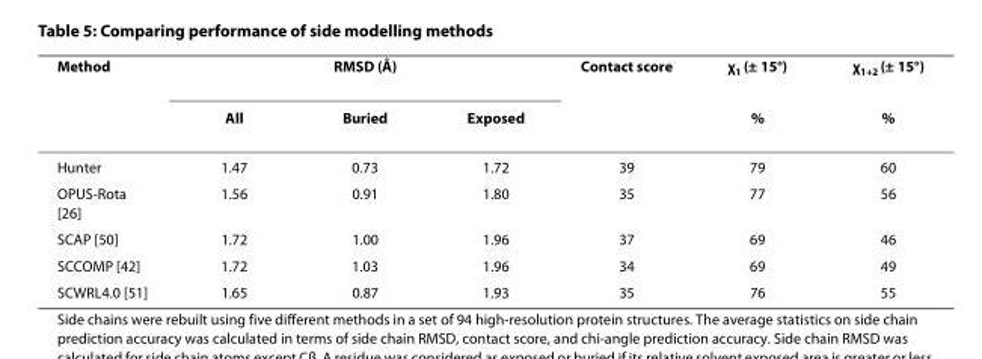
<table><thead><tr><td rowspan="2">Method</td><td colspan="3">RMSD (Å)</td><td rowspan="2">Contact score</td><td rowspan="2">χ<sub>1</sub> (± 15°) %</td><td rowspan="2">χ<sub>1+2</sub> (± 15°) %</td></tr><tr><td>All</td><td>Buried</td><td>Exposed</td></tr></thead><tbody><tr><td>Hunter</td><td>1.47</td><td>0.73</td><td>1.72</td><td>39</td><td>79</td><td>60</td></tr><tr><td>OPUS-Rota [26]</td><td>1.56</td><td>0.91</td><td>1.80</td><td>35</td><td>77</td><td>56</td></tr><tr><td>SCAP [50]</td><td>1.72</td><td>1.00</td><td>1.96</td><td>37</td><td>69</td><td>46</td></tr><tr><td>SCCOMP [42]</td><td>1.72</td><td>1.03</td><td>1.96</td><td>34</td><td>69</td><td>49</td></tr><tr><td>SCWRL4.0 [51]</td><td>1.65</td><td>0.87</td><td>1.93</td><td>35</td><td>76</td><td>55</td></tr></tbody></table>